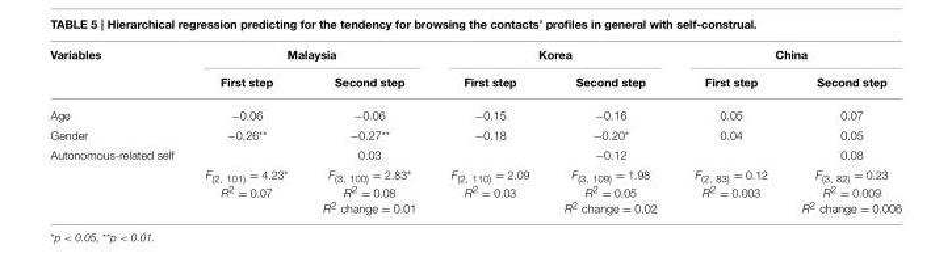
<table><thead><tr><td rowspan="2">Variables</td><td colspan="2">Malaysia</td><td colspan="2">Korea</td><td colspan="2">China</td></tr><tr><td>First step</td><td>Second step</td><td>First step</td><td>Second step</td><td>First step</td><td>Second step</td></tr></thead><tbody><tr><td>Age</td><td>−0.06</td><td>−0.06</td><td>−0.15</td><td>−0.16</td><td>0.05</td><td>0.07</td></tr><tr><td>Gender</td><td>−0.26**</td><td>−0.27**</td><td>−0.18</td><td>−0.20*</td><td>0.04</td><td>0.05</td></tr><tr><td rowspan="2">Autonomous-related self</td><td></td><td>0.03</td><td></td><td>−0.12</td><td></td><td>0.08</td></tr><tr><td>F<sub>(2, 101)</sub> = 4.23* R<sup>2</sup> = 0.07</td><td>F<sub>(3, 100)</sub> = 2.83* R<sup>2</sup> = 0.08 R<sup>2</sup> change = 0.01</td><td>F<sub>(2, 110)</sub> = 2.09 R<sup>2</sup> = 0.03</td><td>F<sub>(3, 109)</sub> = 1.98 R<sup>2</sup> = 0.05 R<sup>2</sup> change = 0.02</td><td>F<sub>(2, 83)</sub> = 0.12 R<sup>2</sup> = 0.003</td><td>F<sub>(3, 82)</sub> = 0.23 R<sup>2</sup> = 0.009 R<sup>2</sup> change = 0.006</td></tr></tbody></table>